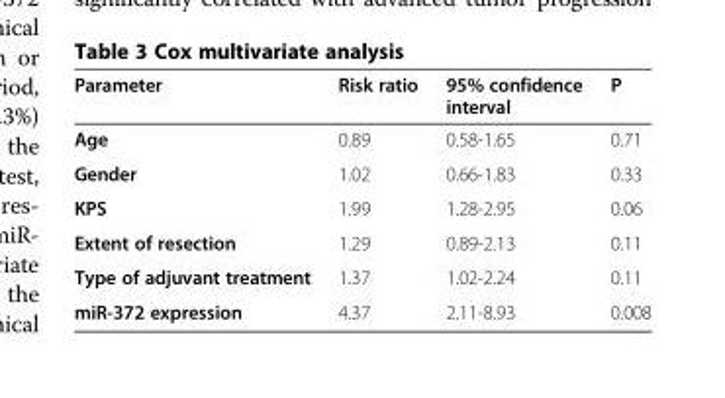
<table><thead><tr><td>Parameter</td><td>Risk ratio</td><td>95% confidence interval</td><td>P</td></tr></thead><tbody><tr><td>Age</td><td>0.89</td><td>0.58-1.65</td><td>0.71</td></tr><tr><td>Gender</td><td>1.02</td><td>0.66-1.83</td><td>0.33</td></tr><tr><td>KPS</td><td>1.99</td><td>1.28-2.95</td><td>0.06</td></tr><tr><td>Extent of resection</td><td>1.29</td><td>0.89-2.13</td><td>0.11</td></tr><tr><td>Type of adjuvant treatment</td><td>1.37</td><td>1.02-2.24</td><td>0.11</td></tr><tr><td>miR-372 expression</td><td>4.37</td><td>2.11-8.93</td><td>0.008</td></tr></tbody></table>